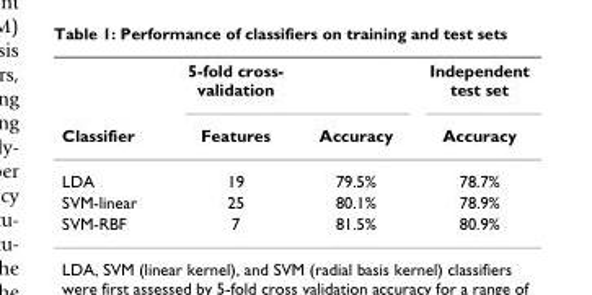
<table><thead><tr><td rowspan="2">Classifier</td><td rowspan="2">5-fold cross- validation Features</td><td rowspan="2">Accuracy</td><td rowspan="2">Independent test set Accuracy</td></tr><tr></tr></thead><tbody><tr><td>LDA</td><td>19</td><td>79.5%</td><td>78.7%</td></tr><tr><td>SVM-linear</td><td>25</td><td>80.1%</td><td>78.9%</td></tr><tr><td>SVM-RBF</td><td>7</td><td>81.5%</td><td>80.9%</td></tr></tbody></table>